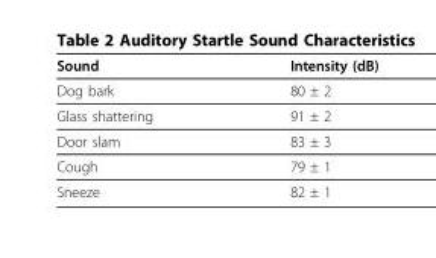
<table><thead><tr><td>Sound</td><td>Intensity (dB)</td></tr></thead><tbody><tr><td>Dog bark</td><td>80 ± 2</td></tr><tr><td>Glass shattering</td><td>91 ± 2</td></tr><tr><td>Door slam</td><td>83 ± 3</td></tr><tr><td>Cough</td><td>79 ± 1</td></tr><tr><td>Sneeze</td><td>82 ± 1</td></tr></tbody></table>